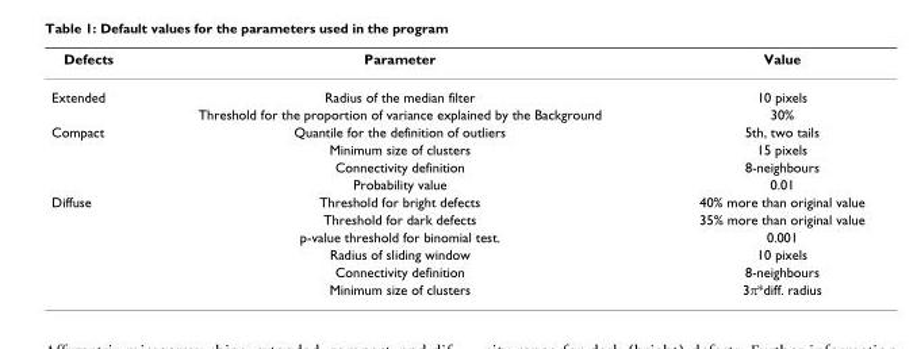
<table><thead><tr><td>Defects</td><td>Parameter</td><td>Value</td></tr></thead><tbody><tr><td rowspan="2">Extended</td><td>Radius of the median filter</td><td>10 pixels</td></tr><tr><td>Threshold for the proportion of variance explained by the Background</td><td>30%</td></tr><tr><td rowspan="4">Compact</td><td>Quantile for the definition of outliers</td><td>5th, two tails</td></tr><tr><td>Minimum size of clusters</td><td>15 pixels</td></tr><tr><td>Connectivity definition</td><td>8-neighbours</td></tr><tr><td>Probability value</td><td>0.01</td></tr><tr><td rowspan="6">Diffuse</td><td>Threshold for bright defects</td><td>40% more than original value</td></tr><tr><td>Threshold for dark defects</td><td>35% more than original value</td></tr><tr><td>p-value threshold for binomial test.</td><td>0.001</td></tr><tr><td>Radius of sliding window</td><td>10 pixels</td></tr><tr><td>Connectivity definition</td><td>8-neighbours</td></tr><tr><td>Minimum size of clusters</td><td>3π*diff. radius</td></tr></tbody></table>